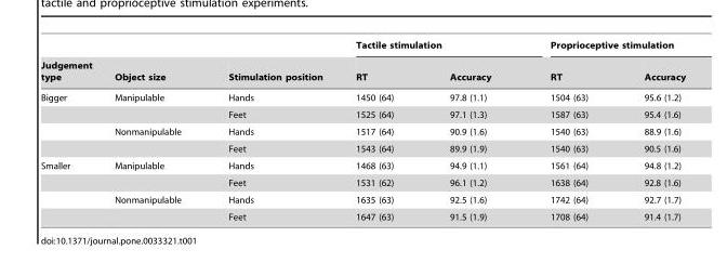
<table><thead><tr><td rowspan="2">Judgement type</td><td rowspan="2">Object size</td><td rowspan="2">Stimulation position</td><td colspan="2">Tactile stimulation</td><td colspan="2">Proprioceptive stimulation</td></tr><tr><td>RT</td><td>Accuracy</td><td>RT</td><td>Accuracy</td></tr></thead><tbody><tr><td rowspan="4">Bigger</td><td>Manipulable</td><td>Hands</td><td>1450 (64)</td><td>97.8 (1.1)</td><td>1504 (63)</td><td>95.6 (1.2)</td></tr><tr><td></td><td>Feet</td><td>1525 (64)</td><td>97.1 (1.3)</td><td>1587 (63)</td><td>95.4 (1.6)</td></tr><tr><td>Nonmanipulable</td><td>Hands</td><td>1517 (64)</td><td>90.9 (1.6)</td><td>1540 (63)</td><td>88.9 (1.6)</td></tr><tr><td></td><td>Feet</td><td>1543 (64)</td><td>89.9 (1.9)</td><td>1540 (63)</td><td>90.5 (1.6)</td></tr><tr><td rowspan="4">Smaller</td><td>Manipulable</td><td>Hands</td><td>1468 (63)</td><td>94.9 (1.1)</td><td>1561 (64)</td><td>94.8 (1.2)</td></tr><tr><td></td><td>Feet</td><td>1531 (62)</td><td>96.1 (1.2)</td><td>1638 (64)</td><td>92.8 (1.6)</td></tr><tr><td>Nonmanipulable</td><td>Hands</td><td>1635 (63)</td><td>92.5 (1.6)</td><td>1742 (64)</td><td>92.7 (1.7)</td></tr><tr><td></td><td>Feet</td><td>1647 (63)</td><td>91.5 (1.9)</td><td>1708 (64)</td><td>91.4 (1.7)</td></tr></tbody></table>